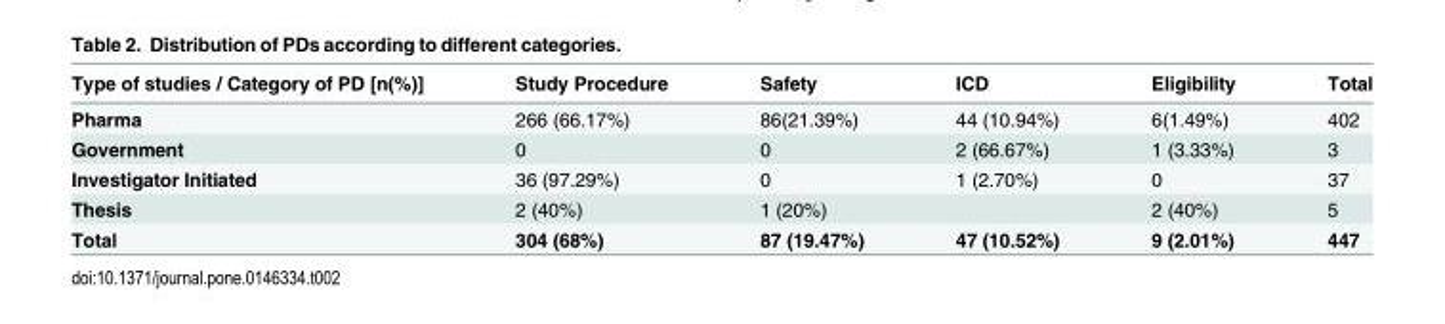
<table><thead><tr><td>Type of studies / Category of PD [n(%)]</td><td>Study Procedure</td><td>Safety</td><td>ICD</td><td>Eligibility</td><td>Total</td></tr></thead><tbody><tr><td>Pharma</td><td>266 (66.17%)</td><td>86(21.39%)</td><td>44 (10.94%)</td><td>6(1.49%)</td><td>402</td></tr><tr><td>Government</td><td>0</td><td>0</td><td>2 (66.67%)</td><td>1 (3.33%)</td><td>3</td></tr><tr><td>Investigator Initiated</td><td>36 (97.29%)</td><td>0</td><td>1 (2.70%)</td><td>0</td><td>37</td></tr><tr><td>Thesis</td><td>2 (40%)</td><td>1 (20%)</td><td></td><td>2 (40%)</td><td>5</td></tr><tr><td>Total</td><td>304 (68%)</td><td>87 (19.47%)</td><td>47 (10.52%)</td><td>9 (2.01%)</td><td>447</td></tr></tbody></table>